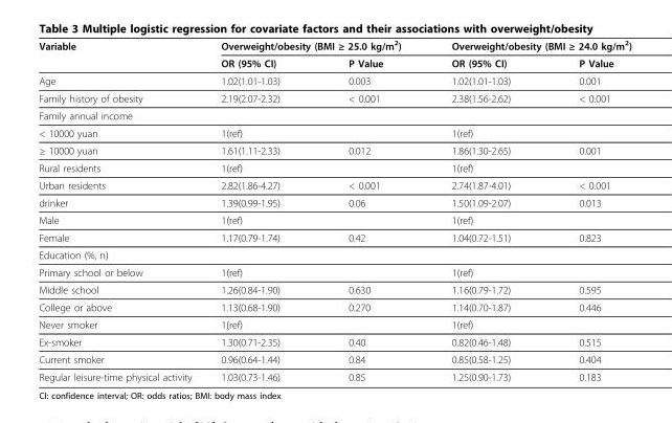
<table><thead><tr><td rowspan="2">Variable</td><td colspan="2">Overweight/obesity (BMI ≥ 25.0 kg/m<sup>2</sup>)</td><td colspan="2">Overweight/obesity (BMI ≥ 24.0 kg/m<sup>2</sup>)</td></tr><tr><td>OR (95% CI)</td><td>P Value</td><td>OR (95% CI)</td><td>P Value</td></tr></thead><tbody><tr><td>Age</td><td>1.02(1.01-1.03)</td><td>0.003</td><td>1.02(1.01-1.03)</td><td>0.001</td></tr><tr><td>Family history of obesity</td><td>2.19(2.07-2.32)</td><td>&lt; 0.001</td><td>2.38(1.56-2.62)</td><td>&lt; 0.001</td></tr><tr><td colspan="5">Family annual income</td></tr><tr><td>&lt; 10000 yuan</td><td>1(ref)</td><td></td><td>1(ref)</td><td></td></tr><tr><td>≥ 10000 yuan</td><td>1.61(1.11-2.33)</td><td>0.012</td><td>1.86(1.30-2.65)</td><td>0.001</td></tr><tr><td>Rural residents</td><td>1(ref)</td><td></td><td>1(ref)</td><td></td></tr><tr><td>Urban residents</td><td>2.82(1.86-4.27)</td><td>&lt; 0.001</td><td>2.74(1.87-4.01)</td><td>&lt; 0.001</td></tr><tr><td>drinker</td><td>1.39(0.99-1.95)</td><td>0.06</td><td>1.50(1.09-2.07)</td><td>0.013</td></tr><tr><td>Male</td><td>1(ref)</td><td></td><td>1(ref)</td><td></td></tr><tr><td>Female</td><td>1.17(0.79-1.74)</td><td>0.42</td><td>1.04(0.72-1.51)</td><td>0.823</td></tr><tr><td colspan="5">Education (%, n)</td></tr><tr><td>Primary school or below</td><td>1(ref)</td><td></td><td>1(ref)</td><td></td></tr><tr><td>Middle school</td><td>1.26(0.84-1.90)</td><td>0.630</td><td>1.16(0.79-1.72)</td><td>0.595</td></tr><tr><td>College or above</td><td>1.13(0.68-1.90)</td><td>0.270</td><td>1.14(0.70-1.87)</td><td>0.446</td></tr><tr><td>Never smoker</td><td>1(ref)</td><td></td><td>1(ref)</td><td></td></tr><tr><td>Ex-smoker</td><td>1.30(0.71-2.35)</td><td>0.40</td><td>0.82(0.46-1.48)</td><td>0.515</td></tr><tr><td>Current smoker</td><td>0.96(0.64-1.44)</td><td>0.84</td><td>0.85(0.58-1.25)</td><td>0.404</td></tr><tr><td>Regular leisure-time physical activity</td><td>1.03(0.73-1.46)</td><td>0.85</td><td>1.25(0.90-1.73)</td><td>0.183</td></tr></tbody></table>